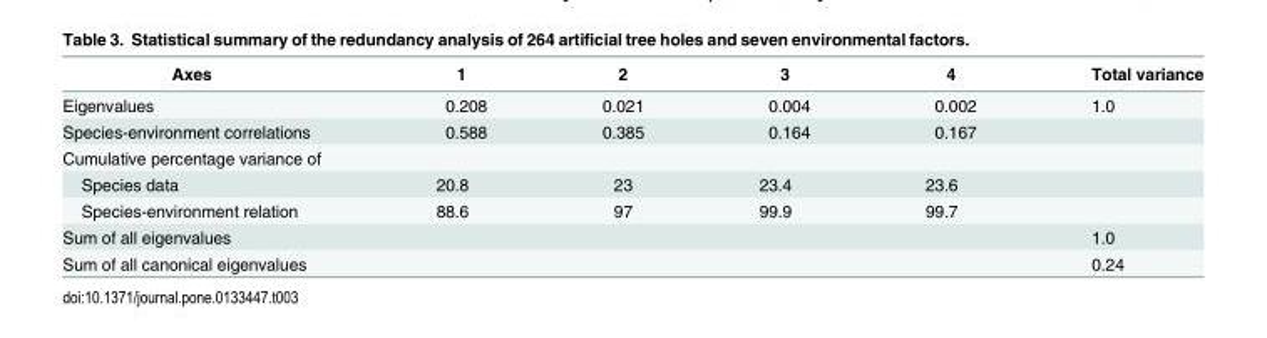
<table><thead><tr><td>Axes</td><td>1</td><td>2</td><td>3</td><td>4</td><td>Total variance</td></tr></thead><tbody><tr><td>Eigenvalues</td><td>0.208</td><td>0.021</td><td>0.004</td><td>0.002</td><td>1.0</td></tr><tr><td>Species-environment correlations</td><td>0.588</td><td>0.385</td><td>0.164</td><td>0.167</td><td></td></tr><tr><td colspan="6">Cumulative percentage variance of</td></tr><tr><td>Species data</td><td>20.8</td><td>23</td><td>23.4</td><td>23.6</td><td></td></tr><tr><td>Species-environment relation</td><td>88.6</td><td>97</td><td>99.9</td><td>99.7</td><td></td></tr><tr><td>Sum of all eigenvalues</td><td></td><td></td><td></td><td></td><td>1.0</td></tr><tr><td>Sum of all canonical eigenvalues</td><td></td><td></td><td></td><td></td><td>0.24</td></tr></tbody></table>